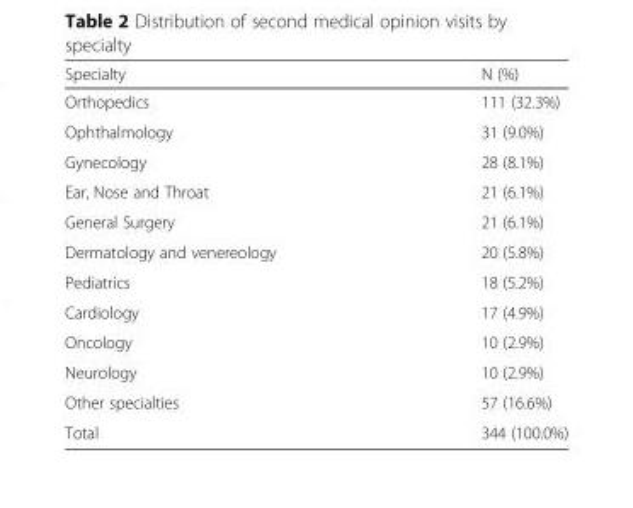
<table><thead><tr><td>Specialty</td><td>N (%)</td></tr></thead><tbody><tr><td>Orthopedics</td><td>111 (32.3%)</td></tr><tr><td>Ophthalmology</td><td>31 (9.0%)</td></tr><tr><td>Gynecology</td><td>28 (8.1%)</td></tr><tr><td>Ear, Nose and Throat</td><td>21 (6.1%)</td></tr><tr><td>General Surgery</td><td>21 (6.1%)</td></tr><tr><td>Dermatology and venereology</td><td>20 (5.8%)</td></tr><tr><td>Pediatrics</td><td>18 (5.2%)</td></tr><tr><td>Cardiology</td><td>17 (4.9%)</td></tr><tr><td>Oncology</td><td>10 (2.9%)</td></tr><tr><td>Neurology</td><td>10 (2.9%)</td></tr><tr><td>Other specialties</td><td>57 (16.6%)</td></tr><tr><td>Total</td><td>344 (100.0%)</td></tr></tbody></table>